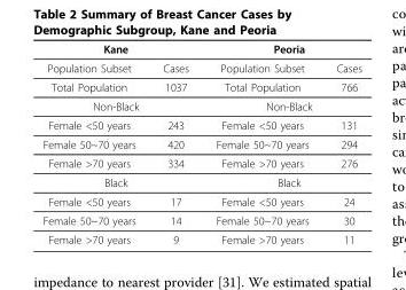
<table><thead><tr><td colspan="2">Kane</td><td colspan="2">Peoria</td></tr><tr><td>Population Subset</td><td>Cases</td><td>Population Subset</td><td>Cases</td></tr></thead><tbody><tr><td>Total Population</td><td>1037</td><td>Total Population</td><td>766</td></tr><tr><td colspan="2">Non-Black</td><td colspan="2">Non-Black</td></tr><tr><td>Female &lt;50 years</td><td>243</td><td>Female &lt;50 years</td><td>131</td></tr><tr><td>Female 50~70 years</td><td>420</td><td>Female 50~70 years</td><td>294</td></tr><tr><td>Female &gt;70 years</td><td>334</td><td>Female &gt;70 years</td><td>276</td></tr><tr><td colspan="2">Black</td><td colspan="2">Black</td></tr><tr><td>Female &lt;50 years</td><td>17</td><td>Female &lt;50 years</td><td>24</td></tr><tr><td>Female 50~70 years</td><td>14</td><td>Female 50~70 years</td><td>30</td></tr><tr><td>Female &gt;70 years</td><td>9</td><td>Female &gt;70 years</td><td>11</td></tr></tbody></table>